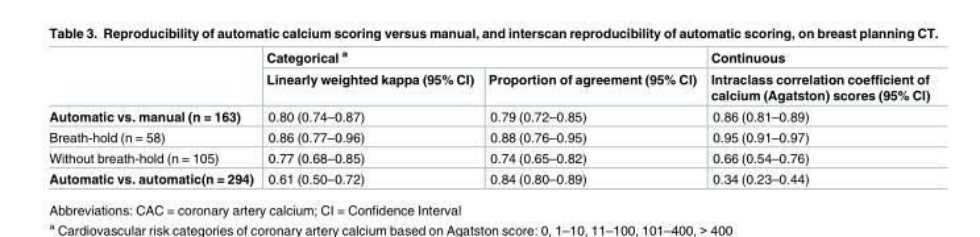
<table><thead><tr><td rowspan="2"></td><td colspan="2">Categorical <sup>a</sup></td><td rowspan="2">Continuous Intraclass correlation coefficient of calcium (Agatston) scores (95% CI)</td></tr><tr><td>Linearly weighted kappa (95% CI)</td><td>Proportion of agreement (95% CI)</td></tr></thead><tbody><tr><td>Automatic vs. manual (n = 163)</td><td>0.80 (0.74–0.87)</td><td>0.79 (0.72–0.85)</td><td>0.86 (0.81–0.89)</td></tr><tr><td>Breath-hold (n = 58)</td><td>0.86 (0.77–0.96)</td><td>0.88 (0.76–0.95)</td><td>0.95 (0.91–0.97)</td></tr><tr><td>Without breath-hold (n = 105)</td><td>0.77 (0.68–0.85)</td><td>0.74 (0.65–0.82)</td><td>0.66 (0.54–0.76)</td></tr><tr><td>Automatic vs. automatic(n = 294)</td><td>0.61 (0.50–0.72)</td><td>0.84 (0.80–0.89)</td><td>0.34 (0.23–0.44)</td></tr></tbody></table>